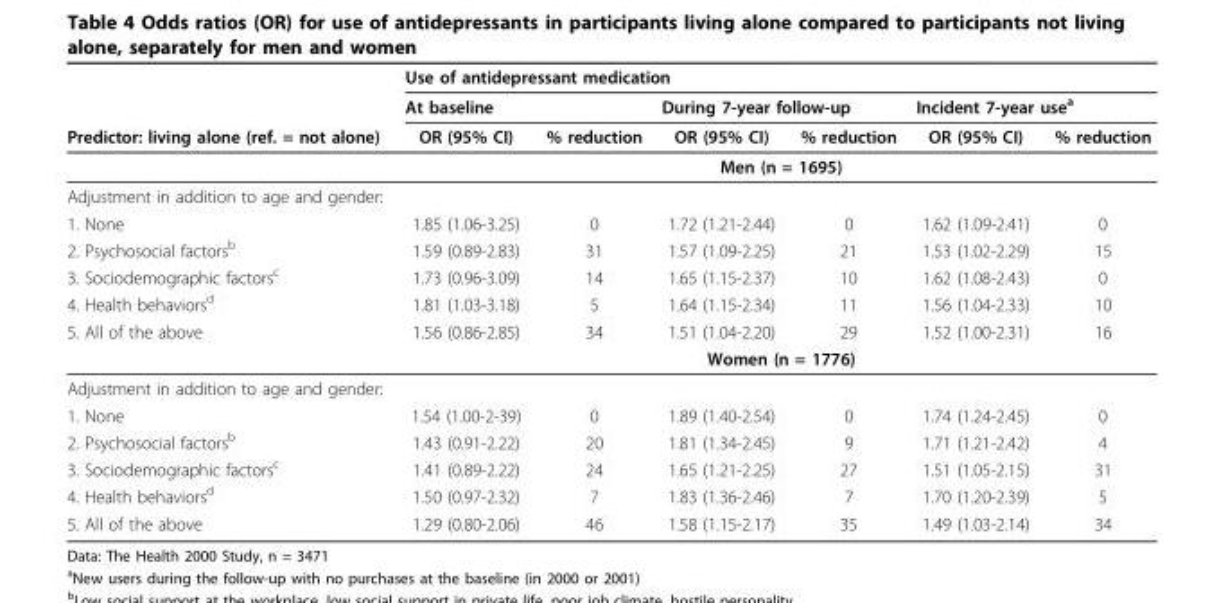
<table><thead><tr><td rowspan="3">Predictor: living alone (ref. = not alone)</td><td colspan="6">Use of antidepressant medication</td></tr><tr><td colspan="2">At baseline</td><td colspan="2">During 7-year follow-up</td><td colspan="2">Incident 7-year use<sup>a</sup></td></tr><tr><td>OR (95% CI)</td><td>% reduction</td><td>OR (95% CI)</td><td>% reduction</td><td>OR (95% CI)</td><td>% reduction</td></tr></thead><tbody><tr><td></td><td colspan="6">Men (n = 1695)</td></tr><tr><td colspan="7">Adjustment in addition to age and gender:</td></tr><tr><td>1. None</td><td>1.85 (1.06-3.25)</td><td>0</td><td>1.72 (1.21-2.44)</td><td>0</td><td>1.62 (1.09-2.41)</td><td>0</td></tr><tr><td>2. Psychosocial factors<sup>b</sup></td><td>1.59 (0.89-2.83)</td><td>31</td><td>1.57 (1.09-2.25)</td><td>21</td><td>1.53 (1.02-2.29)</td><td>15</td></tr><tr><td>3. Sociodemographic factors<sup>c</sup></td><td>1.73 (0.96-3.09)</td><td>14</td><td>1.65 (1.15-2.37)</td><td>10</td><td>1.62 (1.08-2.43)</td><td>0</td></tr><tr><td>4. Health behaviors<sup>d</sup></td><td>1.81 (1.03-3.18)</td><td>5</td><td>1.64 (1.15-2.34)</td><td>11</td><td>1.56 (1.04-2.33)</td><td>10</td></tr><tr><td rowspan="2">5. All of the above</td><td>1.56 (0.86-2.85)</td><td>34</td><td>1.51 (1.04-2.20)</td><td>29</td><td>1.52 (1.00-2.31)</td><td>16</td></tr><tr><td colspan="6">Women (n = 1776)</td></tr><tr><td colspan="7">Adjustment in addition to age and gender:</td></tr><tr><td>1. None</td><td>1.54 (1.00-2-39)</td><td>0</td><td>1.89 (1.40-2.54)</td><td>0</td><td>1.74 (1.24-2.45)</td><td>0</td></tr><tr><td>2. Psychosocial factors<sup>b</sup></td><td>1.43 (0.91-2.22)</td><td>20</td><td>1.81 (1.34-2.45)</td><td>9</td><td>1.71 (1.21-2.42)</td><td>4</td></tr><tr><td>3. Sociodemographic factors<sup>c</sup></td><td>1.41 (0.89-2.22)</td><td>24</td><td>1.65 (1.21-2.25)</td><td>27</td><td>1.51 (1.05-2.15)</td><td>31</td></tr><tr><td>4. Health behaviors<sup>d</sup></td><td>1.50 (0.97-2.32)</td><td>7</td><td>1.83 (1.36-2.46)</td><td>7</td><td>1.70 (1.20-2.39)</td><td>5</td></tr><tr><td>5. All of the above</td><td>1.29 (0.80-2.06)</td><td>46</td><td>1.58 (1.15-2.17)</td><td>35</td><td>1.49 (1.03-2.14)</td><td>34</td></tr></tbody></table>